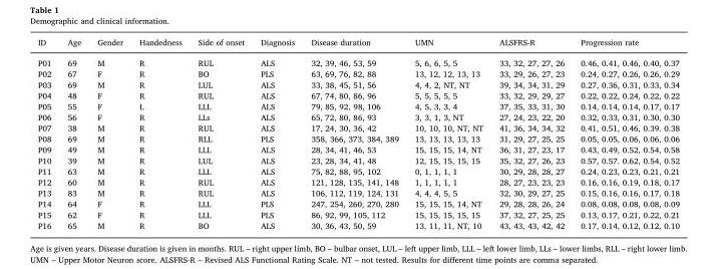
<table><thead><tr><td>ID</td><td>Age</td><td>Gender</td><td>Handedness</td><td>Side of onset</td><td>Diagnosis</td><td>Disease duration</td><td>UMN</td><td>ALSFRS-R</td><td>Progression rate</td></tr></thead><tbody><tr><td>P01</td><td>69</td><td>M</td><td>R</td><td>RUL</td><td>ALS</td><td>32, 39, 46, 53, 59</td><td>5, 6, 6, 5, 5</td><td>33, 32, 27, 27, 26</td><td>0.46, 0.41, 0.46, 0.40, 0.37</td></tr><tr><td>P02</td><td>67</td><td>F</td><td>R</td><td>BO</td><td>PLS</td><td>63, 69, 76, 82, 88</td><td>13, 12, 12, 13, 13</td><td>33, 29, 26, 27, 23</td><td>0.24, 0.27, 0.26, 0.26, 0.29</td></tr><tr><td>P03</td><td>69</td><td>M</td><td>R</td><td>LUL</td><td>ALS</td><td>33, 38, 45, 51, 56</td><td>4, 4, 2, NT, NT</td><td>39, 34, 34, 31, 29</td><td>0.27, 0.36, 0.31, 0.33, 0.34</td></tr><tr><td>P04</td><td>48</td><td>F</td><td>R</td><td>RUL</td><td>ALS</td><td>67, 74, 80, 86, 96</td><td>5, 5, 5, 5, 5</td><td>33, 32, 29, 29, 27</td><td>0.22, 0.22, 0.24, 0.22, 0.22</td></tr><tr><td>P05</td><td>55</td><td>F</td><td>L</td><td>LLL</td><td>ALS</td><td>79, 85, 92, 98, 106</td><td>4, 5, 3, 3, 4</td><td>37, 35, 33, 31, 30</td><td>0.14, 0.14, 0.14, 0.17, 0.17</td></tr><tr><td>P06</td><td>56</td><td>F</td><td>R</td><td>LLs</td><td>ALS</td><td>65, 72, 80, 86, 93</td><td>3, 3, 1, 3, NT</td><td>27, 24, 23, 22, 20</td><td>0.32, 0.33, 0.31, 0.30, 0.30</td></tr><tr><td>P07</td><td>38</td><td>M</td><td>R</td><td>RUL</td><td>ALS</td><td>17, 24, 30, 36, 42</td><td>10, 10, 10, NT, NT</td><td>41, 36, 34, 34, 32</td><td>0.41, 0.51, 0.46, 0.39. 0.38</td></tr><tr><td>P08</td><td>69</td><td>M</td><td>R</td><td>RLL</td><td>PLS</td><td>358, 366, 373, 384, 389</td><td>13, 13, 13, 13, 13</td><td>31, 29, 27, 25, 25</td><td>0.05, 0.05, 0.06, 0.06, 0.06</td></tr><tr><td>P09</td><td>49</td><td>M</td><td>R</td><td>LLL</td><td>ALS</td><td>28, 34, 41, 46, 53</td><td>15, 15, 15, 14, NT</td><td>36, 31, 27, 23, 17</td><td>0.43, 0.49, 0.52, 0.54, 0.58</td></tr><tr><td>P10</td><td>39</td><td>M</td><td>R</td><td>LUL</td><td>ALS</td><td>23, 28, 34, 41, 48</td><td>12, 15, 15, 15, 15</td><td>35, 32, 27, 26, 23</td><td>0.57, 0.57. 0.62, 0.54, 0.52</td></tr><tr><td>P11</td><td>63</td><td>M</td><td>R</td><td>LLL</td><td>ALS</td><td>75, 82, 88, 95, 102</td><td>0, 1, 1, 1, 1</td><td>30, 29, 28, 28, 27</td><td>0.24, 0.23, 0.23, 0.21, 0.21</td></tr><tr><td>P12</td><td>60</td><td>M</td><td>R</td><td>RUL</td><td>ALS</td><td>121, 128, 135, 141, 148</td><td>1, 1, 1, 1, 1</td><td>28, 27, 23, 23, 23</td><td>0.16, 0.16, 0.19, 0.18, 0.17</td></tr><tr><td>P13</td><td>83</td><td>M</td><td>R</td><td>RUL</td><td>ALS</td><td>106, 112, 119, 124, 131</td><td>4, 4, 4, 5, 5</td><td>32, 30, 29, 27, 25</td><td>0.15, 0.16, 0.16, 0.17, 0.18</td></tr><tr><td>P14</td><td>64</td><td>F</td><td>R</td><td>LLL</td><td>PLS</td><td>247, 254, 260, 270, 280</td><td>15, 15, 15, 14, NT</td><td>29, 28, 28, 26, 24</td><td>0.08, 0.08, 0.08, 0.08, 0.09</td></tr><tr><td>P15</td><td>62</td><td>F</td><td>R</td><td>LLL</td><td>PLS</td><td>86, 92, 99, 105, 112</td><td>15, 15, 15, 15, 15</td><td>37, 32, 27, 25, 25</td><td>0.13, 0.17, 0.21, 0.22, 0.21</td></tr><tr><td>P16</td><td>65</td><td>M</td><td>R</td><td>BO</td><td>ALS</td><td>30, 36, 43, 50, 59</td><td>13, 11, 11, NT, 10</td><td>43, 43, 43, 42, 42</td><td>0.17, 0.14, 0.12, 0.12, 0.10</td></tr></tbody></table>